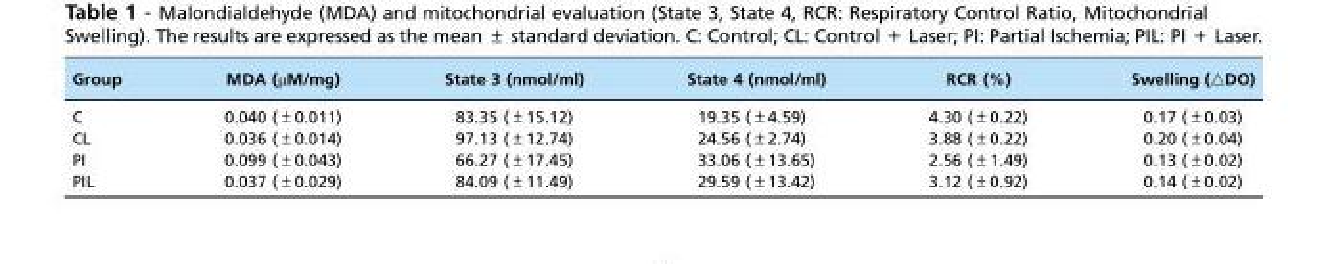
<table><thead><tr><td>Group</td><td>MDA (µM/mg)</td><td>State 3 (nmol/ml)</td><td>State 4 (nmol/ml)</td><td>RCR (%)</td><td>Swelling (▵DO)</td></tr></thead><tbody><tr><td>C</td><td>0.040 (±0.011)</td><td>83.35 (±15.12)</td><td>19.35 (±4.59)</td><td>4.30 (±0.22)</td><td>0.17 (±0.03)</td></tr><tr><td>CL</td><td>0.036 (±0.014)</td><td>97.13 (±12.74)</td><td>24.56 (±2.74)</td><td>3.88 (±0.22)</td><td>0.20 (±0.04)</td></tr><tr><td>PI</td><td>0.099 (±0.043)</td><td>66.27 (±17.45)</td><td>33.06 (±13.65)</td><td>2.56 (±1.49)</td><td>0.13 (±0.02)</td></tr><tr><td>PIL</td><td>0.037 (±0.029)</td><td>84.09 (±11.49)</td><td>29.59 (±13.42)</td><td>3.12 (±0.92)</td><td>0.14 (±0.02)</td></tr></tbody></table>